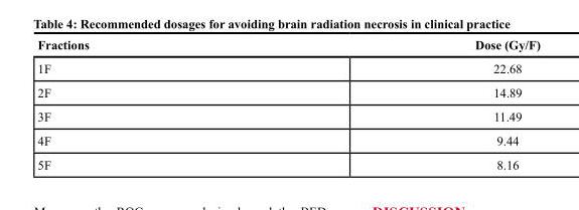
<table><thead><tr><td>Fractions</td><td>Dose (Gy/F)</td></tr></thead><tbody><tr><td>1F</td><td>22.68</td></tr><tr><td>2F</td><td>14.89</td></tr><tr><td>3F</td><td>11.49</td></tr><tr><td>4F</td><td>9.44</td></tr><tr><td>5F</td><td>8.16</td></tr></tbody></table>